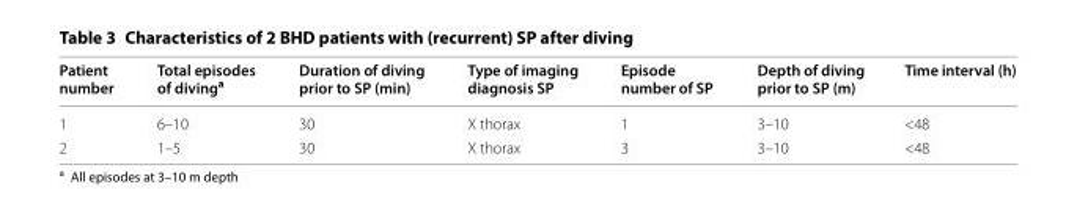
<table><thead><tr><td>Patient number</td><td>Total episodes of diving<sup>a</sup></td><td>Duration of diving prior to SP (min)</td><td>Type of imaging diagnosis SP</td><td>Episode number of SP</td><td>Depth of diving prior to SP (m)</td><td>Time interval (h)</td></tr></thead><tbody><tr><td>1</td><td>6–10</td><td>30</td><td>X thorax</td><td>1</td><td>3–10</td><td>&lt;48</td></tr><tr><td>2</td><td>1–5</td><td>30</td><td>X thorax</td><td>3</td><td>3–10</td><td>&lt;48</td></tr></tbody></table>